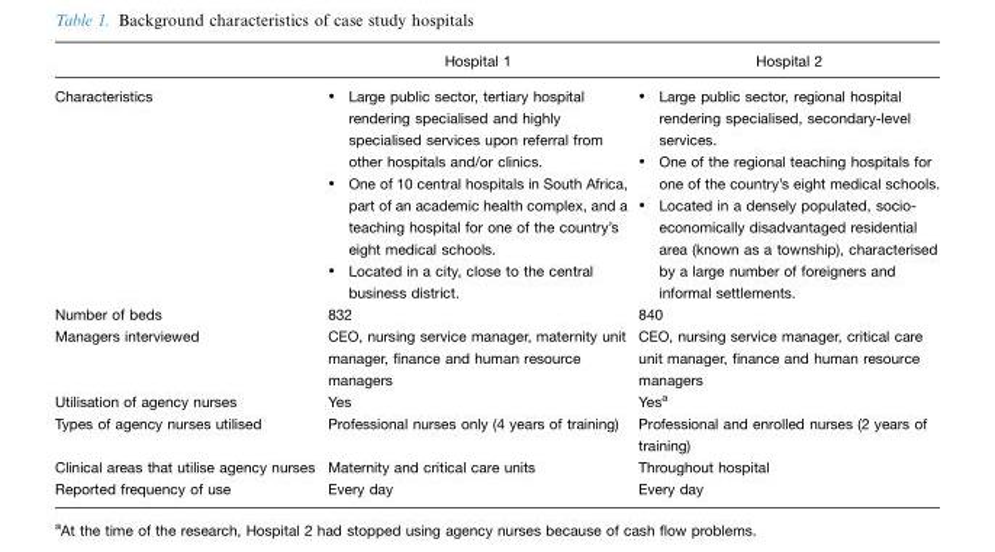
<table><thead><tr><td></td><td>Hospital 1</td><td>Hospital 2</td></tr></thead><tbody><tr><td>Characteristics</td><td>� Large public sector, tertiary hospital rendering specialised and highly specialised services upon referral from other hospitals and/or clinics. � One of 10 central hospitals in South Africa, part of an academic health complex, and a teaching hospital for one of the country’s eight medical schools. � Located in a city, close to the central business district.</td><td>� Large public sector, regional hospital rendering specialised, secondary-level services. � One of the regional teaching hospitals for one of the country’s eight medical schools. � Located in a densely populated, socio- economically disadvantaged residential area (known as a township), characterised by a large number of foreigners and informal settlements.</td></tr><tr><td>Number of beds</td><td>832</td><td>840</td></tr><tr><td>Managers interviewed</td><td>CEO, nursing service manager, maternity unit manager, finance and human resource managers</td><td>CEO, nursing service manager, critical care unit manager, finance and human resource managers</td></tr><tr><td>Utilisation of agency nurses</td><td>Yes</td><td>Yes<sup>a</sup></td></tr><tr><td>Types of agency nurses utilised</td><td>Professional nurses only (4 years of training)</td><td>Professional and enrolled nurses (2 years of training)</td></tr><tr><td>Clinical areas that utilise agency nurses</td><td>Maternity and critical care units</td><td>Throughout hospital</td></tr><tr><td>Reported frequency of use</td><td>Every day</td><td>Every day</td></tr></tbody></table>